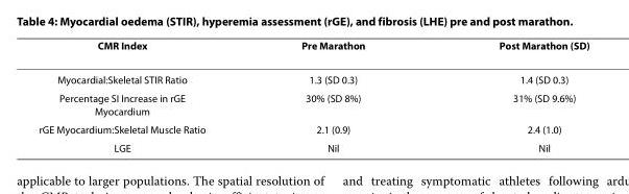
<table><thead><tr><td>CMR Index</td><td>Pre Marathon</td><td>Post Marathon (SD)</td></tr></thead><tbody><tr><td>Myocardial:Skeletal STIR Ratio</td><td>1.3 (SD 0.3)</td><td>1.4 (SD 0.3)</td></tr><tr><td>Percentage SI Increase in rGE Myocardium</td><td>30% (SD 8%)</td><td>31% (SD 9.6%)</td></tr><tr><td>rGE Myocardium:Skeletal Muscle Ratio</td><td>2.1 (0.9)</td><td>2.4 (1.0)</td></tr><tr><td>LGE</td><td>Nil</td><td>Nil</td></tr></tbody></table>